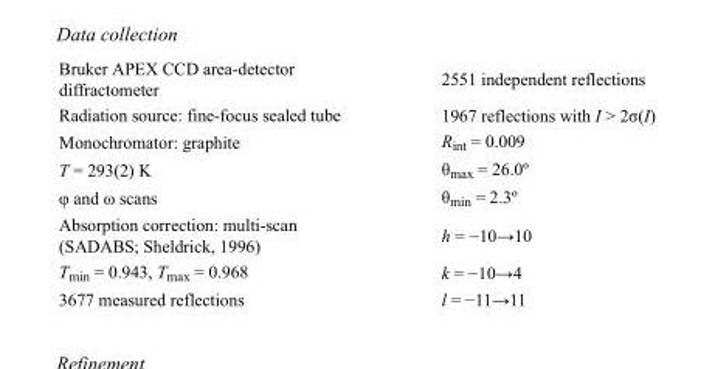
<table><tbody><tr><td>Bruker APEX CCD area-detector diffractometer</td><td>2551 independent reflections</td></tr><tr><td>Radiation source: fine-focus sealed tube</td><td>1967 reflections with I &gt; 2σ(I)</td></tr><tr><td>Monochromator: graphite</td><td>R<sub>int</sub> = 0.009</td></tr><tr><td>T = 293(2) K</td><td>θ<sub>max</sub> = 26.0º</td></tr><tr><td>φ and ω scans</td><td>θ<sub>min</sub> = 2.3º</td></tr><tr><td>Absorption correction: multi-scan (SADABS; Sheldrick, 1996)</td><td>h = −10→10</td></tr><tr><td>T<sub>min</sub> = 0.943, T<sub>max</sub> = 0.968</td><td>k = −10→4</td></tr><tr><td>3677 measured reflections</td><td>l = −11→11</td></tr></tbody></table>